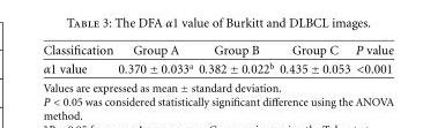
<table><thead><tr><td>Classification</td><td>Group A</td><td>Group B</td><td>Group C</td><td>P value</td></tr></thead><tbody><tr><td>α1 value</td><td>0.370 ± 0.033<sup>a</sup></td><td>0.382 ± 0.022<sup>b</sup></td><td>0.435 ± 0.053</td><td>&lt;0.001</td></tr></tbody></table>